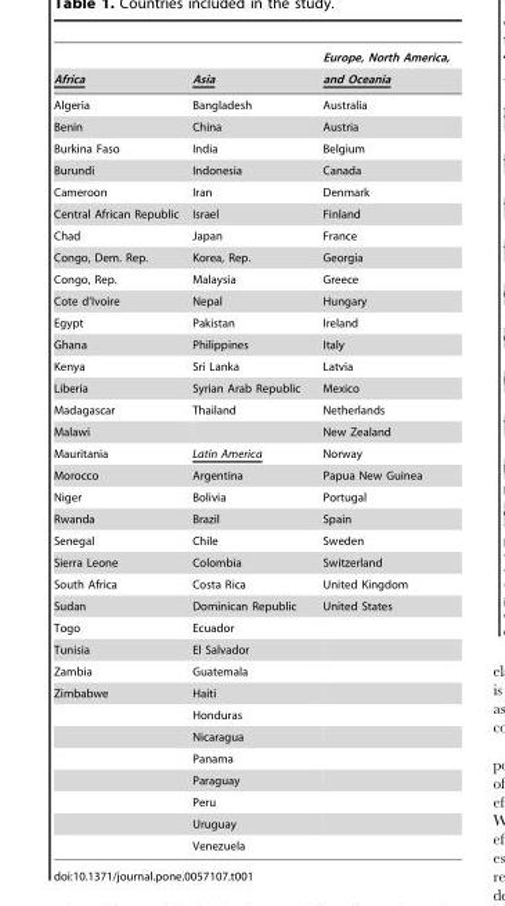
<table><thead><tr><td rowspan="2">Africa</td><td rowspan="2">Asia</td><td rowspan="2">Europe, North America, and Oceania</td></tr><tr></tr></thead><tbody><tr><td>Algeria</td><td>Bangladesh</td><td>Australia</td></tr><tr><td>Benin</td><td>China</td><td>Austria</td></tr><tr><td>Burkina Faso</td><td>India</td><td>Belgium</td></tr><tr><td>Burundi</td><td>Indonesia</td><td>Canada</td></tr><tr><td>Cameroon</td><td>Iran</td><td>Denmark</td></tr><tr><td>Central African Republic</td><td>Israel</td><td>Finland</td></tr><tr><td>Chad</td><td>Japan</td><td>France</td></tr><tr><td>Congo, Dem. Rep.</td><td>Korea, Rep.</td><td>Georgia</td></tr><tr><td>Congo, Rep.</td><td>Malaysia</td><td>Greece</td></tr><tr><td>Cote d’Ivoire</td><td>Nepal</td><td>Hungary</td></tr><tr><td>Egypt</td><td>Pakistan</td><td>Ireland</td></tr><tr><td>Ghana</td><td>Philippines</td><td>Italy</td></tr><tr><td>Kenya</td><td>Sri Lanka</td><td>Latvia</td></tr><tr><td>Liberia</td><td>Syrian Arab Republic</td><td>Mexico</td></tr><tr><td>Madagascar</td><td>Thailand</td><td>Netherlands</td></tr><tr><td>Malawi</td><td></td><td>New Zealand</td></tr><tr><td>Mauritania</td><td>Latin America</td><td>Norway</td></tr><tr><td>Morocco</td><td>Argentina</td><td>Papua New Guinea</td></tr><tr><td>Niger</td><td>Bolivia</td><td>Portugal</td></tr><tr><td>Rwanda</td><td>Brazil</td><td>Spain</td></tr><tr><td>Senegal</td><td>Chile</td><td>Sweden</td></tr><tr><td>Sierra Leone</td><td>Colombia</td><td>Switzerland</td></tr><tr><td>South Africa</td><td>Costa Rica</td><td>United Kingdom</td></tr><tr><td>Sudan</td><td>Dominican Republic</td><td>United States</td></tr><tr><td>Togo</td><td>Ecuador</td><td></td></tr><tr><td>Tunisia</td><td>El Salvador</td><td></td></tr><tr><td>Zambia</td><td>Guatemala</td><td></td></tr><tr><td rowspan="8">Zimbabwe</td><td>Haiti</td><td></td></tr><tr><td>Honduras</td><td></td></tr><tr><td>Nicaragua</td><td></td></tr><tr><td>Panama</td><td></td></tr><tr><td>Paraguay</td><td></td></tr><tr><td>Peru</td><td></td></tr><tr><td>Uruguay</td><td></td></tr><tr><td>Venezuela</td><td></td></tr></tbody></table>